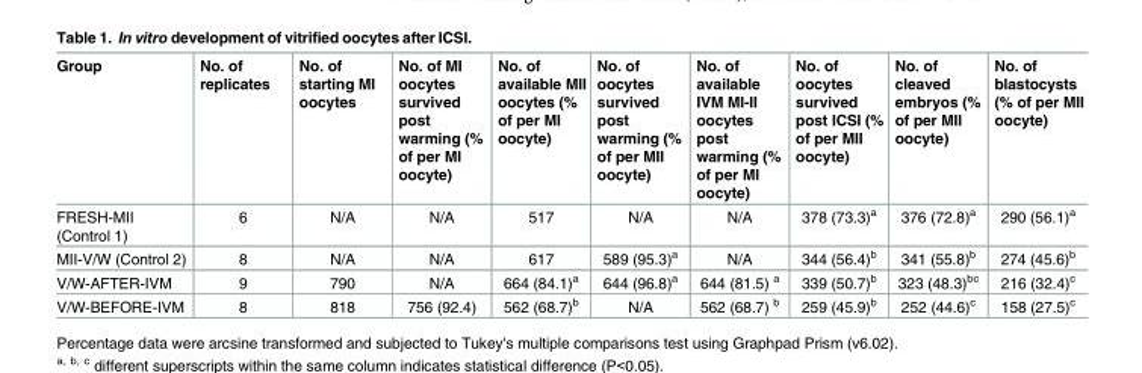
<table><thead><tr><td>Group</td><td>No. of replicates</td><td>No. of starting MI oocytes</td><td>No. of MI oocytes survived post warming (% of per MI oocyte)</td><td>No. of available MII oocytes (% of per MI oocyte)</td><td>No. of oocytes survived post warming (% of per MII oocyte)</td><td>No. of available IVM MI-II oocytes post warming (% of per MI oocyte)</td><td>No. of oocytes survived post ICSI (% of per MII oocyte)</td><td>No. of cleaved embryos (% of per MII oocyte)</td><td>No. of blastocysts (% of per MII oocyte)</td></tr></thead><tbody><tr><td>FRESH-MII (Control 1)</td><td>6</td><td>N/A</td><td>N/A</td><td>517</td><td>N/A</td><td>N/A</td><td>378 (73.3)<sup>a</sup></td><td>376 (72.8)<sup>a</sup></td><td>290 (56.1)<sup>a</sup></td></tr><tr><td>MII-V/W (Control 2)</td><td>8</td><td>N/A</td><td>N/A</td><td>617</td><td>589 (95.3)<sup>a</sup></td><td>N/A</td><td>344 (56.4)<sup>b</sup></td><td>341 (55.8)<sup>b</sup></td><td>274 (45.6)<sup>b</sup></td></tr><tr><td>V/W-AFTER-IVM</td><td>9</td><td>790</td><td>N/A</td><td>664 (84.1)<sup>a</sup></td><td>644 (96.8)<sup>a</sup></td><td>644 (81.5) <sup>a</sup></td><td>339 (50.7)<sup>b</sup></td><td>323 (48.3)<sup>bc</sup></td><td>216 (32.4)<sup>c</sup></td></tr><tr><td>V/W-BEFORE-IVM</td><td>8</td><td>818</td><td>756 (92.4)</td><td>562 (68.7)<sup>b</sup></td><td>N/A</td><td>562 (68.7) <sup>b</sup></td><td>259 (45.9)<sup>b</sup></td><td>252 (44.6)<sup>c</sup></td><td>158 (27.5)<sup>c</sup></td></tr></tbody></table>